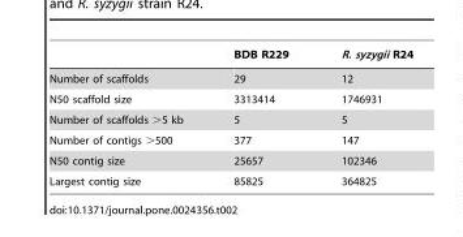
<table><thead><tr><td></td><td>BDB R229</td><td>R. syzygii R24</td></tr></thead><tbody><tr><td>Number of scaffolds</td><td>29</td><td>12</td></tr><tr><td>N50 scaffold size</td><td>3313414</td><td>1746931</td></tr><tr><td>Number of scaffolds &gt;5 kb</td><td>5</td><td>5</td></tr><tr><td>Number of contigs &gt;500</td><td>377</td><td>147</td></tr><tr><td>N50 contig size</td><td>25657</td><td>102346</td></tr><tr><td>Largest contig size</td><td>85825</td><td>364825</td></tr></tbody></table>